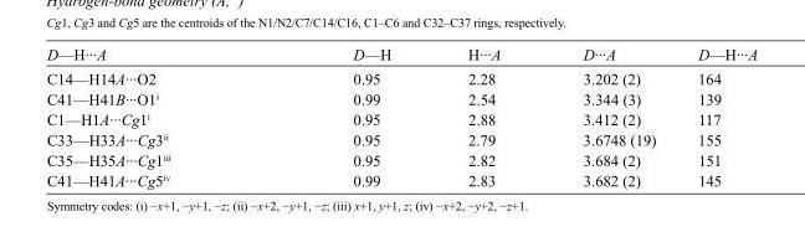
<table><tbody><tr><td>D—H···A</td><td>D—H</td><td>H···A</td><td>D···A</td><td>D—H···A</td></tr><tr><td>C14—H14A···O2</td><td>0.95</td><td>2.28</td><td>3.202 (2)</td><td>164</td></tr><tr><td>C41—H41B···O1<sup>i</sup></td><td>0.99</td><td>2.54</td><td>3.344 (3)</td><td>139</td></tr><tr><td>C1—H1A···Cg1<sup>i</sup></td><td>0.95</td><td>2.88</td><td>3.412 (2)</td><td>117</td></tr><tr><td>C33—H33A···Cg3<sup>ii</sup></td><td>0.95</td><td>2.79</td><td>3.6748 (19)</td><td>155</td></tr><tr><td>C35—H35A···Cg1<sup>iii</sup></td><td>0.95</td><td>2.82</td><td>3.684 (2)</td><td>151</td></tr><tr><td>C41—H41A···Cg5<sup>iv</sup></td><td>0.99</td><td>2.83</td><td>3.682 (2)</td><td>145</td></tr></tbody></table>